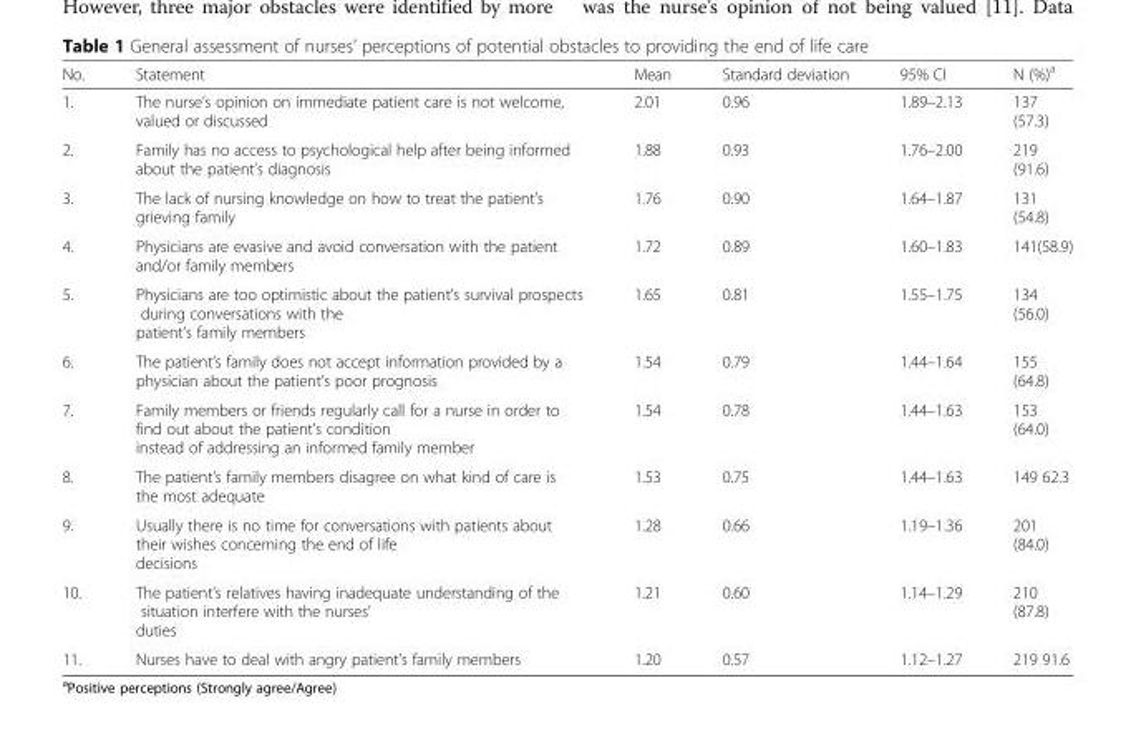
<table><thead><tr><td>No.</td><td>Statement</td><td>Mean</td><td>Standard deviation</td><td>95% CI</td><td>N (%)<sup>a</sup></td></tr></thead><tbody><tr><td>1.</td><td>The nurse’s opinion on immediate patient care is not welcome, valued or discussed</td><td>2.01</td><td>0.96</td><td>1.89–2.13</td><td>137 (57.3)</td></tr><tr><td>2.</td><td>Family has no access to psychological help after being informed about the patient’s diagnosis</td><td>1.88</td><td>0.93</td><td>1.76–2.00</td><td>219 (91.6)</td></tr><tr><td>3.</td><td>The lack of nursing knowledge on how to treat the patient’s grieving family</td><td>1.76</td><td>0.90</td><td>1.64–1.87</td><td>131 (54.8)</td></tr><tr><td>4.</td><td>Physicians are evasive and avoid conversation with the patient and/or family members</td><td>1.72</td><td>0.89</td><td>1.60–1.83</td><td>141(58.9)</td></tr><tr><td>5.</td><td>Physicians are too optimistic about the patient’s survival prospects during conversations with the patient’s family members</td><td>1.65</td><td>0.81</td><td>1.55–1.75</td><td>134 (56.0)</td></tr><tr><td>6.</td><td>The patient’s family does not accept information provided by a physician about the patient’s poor prognosis</td><td>1.54</td><td>0.79</td><td>1.44–1.64</td><td>155 (64.8)</td></tr><tr><td>7.</td><td>Family members or friends regularly call for a nurse in order to find out about the patient’s condition instead of addressing an informed family member</td><td>1.54</td><td>0.78</td><td>1.44–1.63</td><td>153 (64.0)</td></tr><tr><td>8.</td><td>The patient’s family members disagree on what kind of care is the most adequate</td><td>1.53</td><td>0.75</td><td>1.44–1.63</td><td>149 62.3</td></tr><tr><td>9.</td><td>Usually there is no time for conversations with patients about their wishes concerning the end of life decisions</td><td>1.28</td><td>0.66</td><td>1.19–1.36</td><td>201 (84.0)</td></tr><tr><td>10.</td><td>The patient’s relatives having inadequate understanding of the situation interfere with the nurses’ duties</td><td>1.21</td><td>0.60</td><td>1.14–1.29</td><td>210 (87.8)</td></tr><tr><td>11.</td><td>Nurses have to deal with angry patient’s family members</td><td>1.20</td><td>0.57</td><td>1.12–1.27</td><td>219 91.6</td></tr></tbody></table>